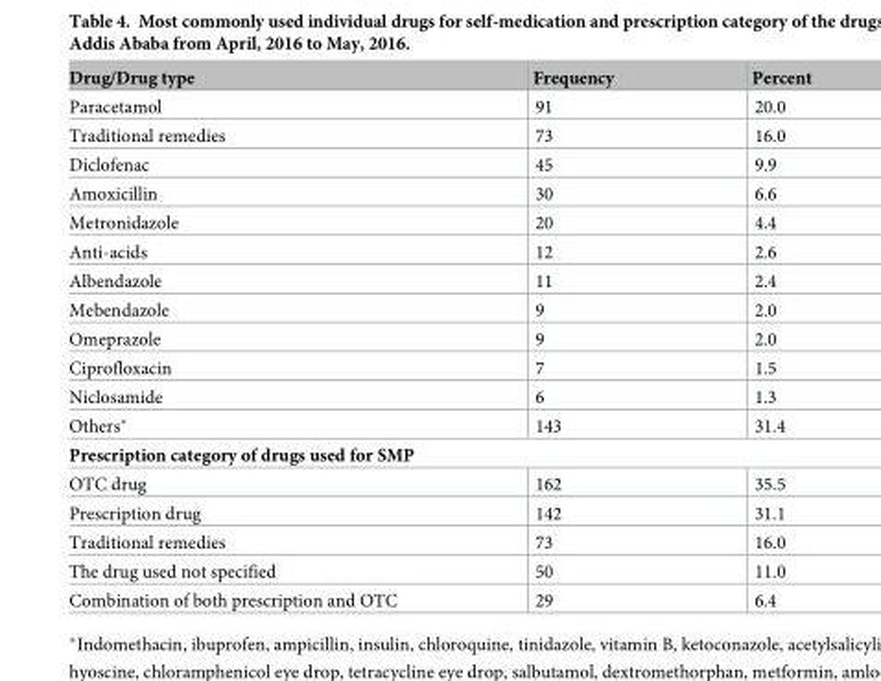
<table><thead><tr><td>Drug/Drug type</td><td>Frequency</td><td>Percent</td></tr></thead><tbody><tr><td>Paracetamol</td><td>91</td><td>20.0</td></tr><tr><td>Traditional remedies</td><td>73</td><td>16.0</td></tr><tr><td>Diclofenac</td><td>45</td><td>9.9</td></tr><tr><td>Amoxicillin</td><td>30</td><td>6.6</td></tr><tr><td>Metronidazole</td><td>20</td><td>4.4</td></tr><tr><td>Anti-acids</td><td>12</td><td>2.6</td></tr><tr><td>Albendazole</td><td>11</td><td>2.4</td></tr><tr><td>Mebendazole</td><td>9</td><td>2.0</td></tr><tr><td>Omeprazole</td><td>9</td><td>2.0</td></tr><tr><td>Ciprofloxacin</td><td>7</td><td>1.5</td></tr><tr><td>Niclosamide</td><td>6</td><td>1.3</td></tr><tr><td>Others*</td><td>143</td><td>31.4</td></tr><tr><td colspan="3">Prescription category of drugs used for SMP</td></tr><tr><td>OTC drug</td><td>162</td><td>35.5</td></tr><tr><td>Prescription drug</td><td>142</td><td>31.1</td></tr><tr><td>Traditional remedies</td><td>73</td><td>16.0</td></tr><tr><td>The drug used not specified</td><td>50</td><td>11.0</td></tr><tr><td>Combination of both prescription and OTC</td><td>29</td><td>6.4</td></tr></tbody></table>